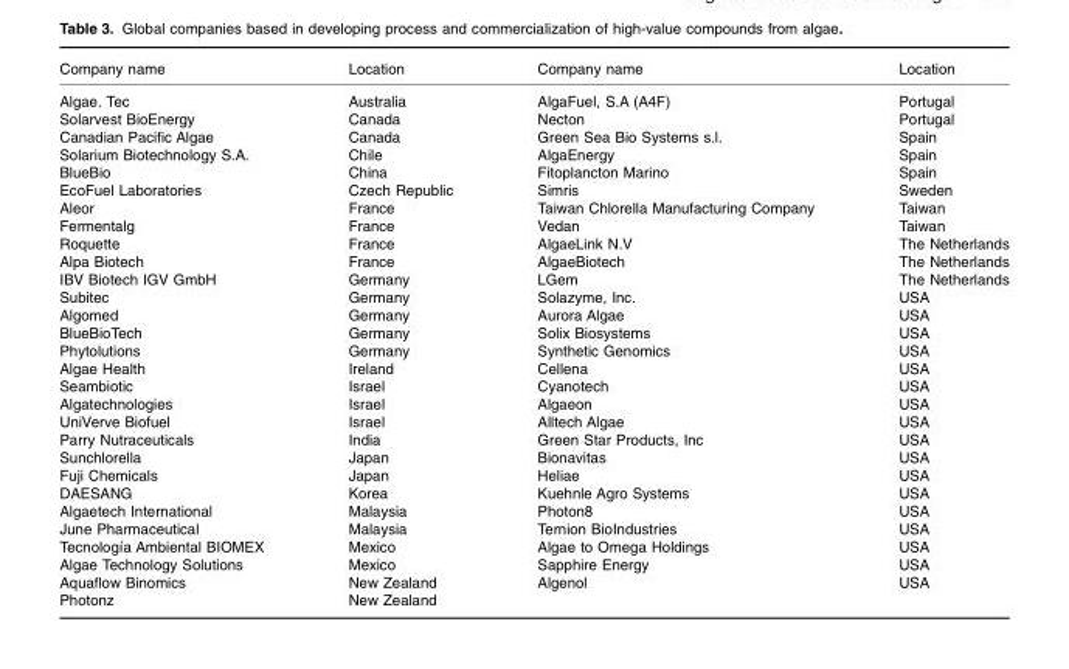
<table><thead><tr><td>Company name</td><td>Location</td><td>Company name</td><td>Location</td></tr></thead><tbody><tr><td>Algae. Tec</td><td>Australia</td><td>AlgaFuel, S.A (A4F)</td><td>Portugal</td></tr><tr><td>Solarvest BioEnergy</td><td>Canada</td><td>Necton</td><td>Portugal</td></tr><tr><td>Canadian Pacific Algae</td><td>Canada</td><td>Green Sea Bio Systems s.l.</td><td>Spain</td></tr><tr><td>Solarium Biotechnology S.A.</td><td>Chile</td><td>AlgaEnergy</td><td>Spain</td></tr><tr><td>BlueBio</td><td>China</td><td>Fitoplancton Marino</td><td>Spain</td></tr><tr><td>EcoFuel Laboratories</td><td>Czech Republic</td><td>Simris</td><td>Sweden</td></tr><tr><td>Aleor</td><td>France</td><td>Taiwan Chlorella Manufacturing Company</td><td>Taiwan</td></tr><tr><td>Fermentalg</td><td>France</td><td>Vedan</td><td>Taiwan</td></tr><tr><td>Roquette</td><td>France</td><td>AlgaeLink N.V</td><td>The Netherlands</td></tr><tr><td>Alpa Biotech</td><td>France</td><td>AlgaeBiotech</td><td>The Netherlands</td></tr><tr><td>IBV Biotech IGV GmbH</td><td>Germany</td><td>LGem</td><td>The Netherlands</td></tr><tr><td>Subitec</td><td>Germany</td><td>Solazyme, Inc.</td><td>USA</td></tr><tr><td>Algomed</td><td>Germany</td><td>Aurora Algae</td><td>USA</td></tr><tr><td>BlueBioTech</td><td>Germany</td><td>Solix Biosystems</td><td>USA</td></tr><tr><td>Phytolutions</td><td>Germany</td><td>Synthetic Genomics</td><td>USA</td></tr><tr><td>Algae Health</td><td>Ireland</td><td>Cellena</td><td>USA</td></tr><tr><td>Seambiotic</td><td>Israel</td><td>Cyanotech</td><td>USA</td></tr><tr><td>Algatechnologies</td><td>Israel</td><td>Algaeon</td><td>USA</td></tr><tr><td>UniVerve Biofuel</td><td>Israel</td><td>Alltech Algae</td><td>USA</td></tr><tr><td>Parry Nutraceuticals</td><td>India</td><td>Green Star Products, Inc</td><td>USA</td></tr><tr><td>Sunchlorella</td><td>Japan</td><td>Bionavitas</td><td>USA</td></tr><tr><td>Fuji Chemicals</td><td>Japan</td><td>Heliae</td><td>USA</td></tr><tr><td>DAESANG</td><td>Korea</td><td>Kuehnle Agro Systems</td><td>USA</td></tr><tr><td>Algaetech International</td><td>Malaysia</td><td>Photon8</td><td>USA</td></tr><tr><td>June Pharmaceutical</td><td>Malaysia</td><td>Ternion BioIndustries</td><td>USA</td></tr><tr><td>Tecnología Ambiental BIOMEX</td><td>Mexico</td><td>Algae to Omega Holdings</td><td>USA</td></tr><tr><td>Algae Technology Solutions</td><td>Mexico</td><td>Sapphire Energy</td><td>USA</td></tr><tr><td>Aquaflow Binomics</td><td>New Zealand</td><td>Algenol</td><td>USA</td></tr><tr><td>Photonz</td><td>New Zealand</td><td></td><td></td></tr></tbody></table>